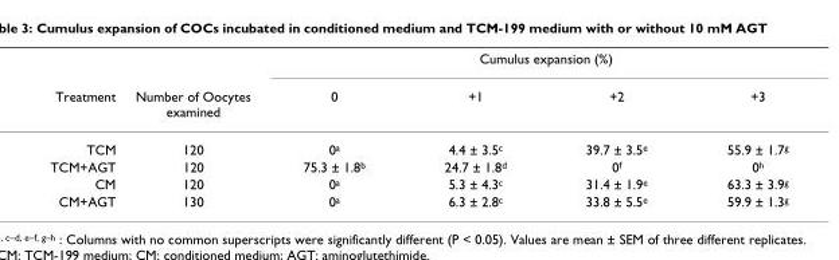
<table><thead><tr><td rowspan="2">Treatment</td><td rowspan="2">Number of Oocytes examined</td><td colspan="4">Cumulus expansion (%)</td></tr><tr><td>0</td><td>+1</td><td>+2</td><td>+3</td></tr></thead><tbody><tr><td>TCM</td><td>120</td><td>0<sup>a</sup></td><td>4.4 ± 3.5<sup>c</sup></td><td>39.7 ± 3.5<sup>e</sup></td><td>55.9 ± 1.7<sup>g</sup></td></tr><tr><td>TCM+AGT</td><td>120</td><td>75.3 ± 1.8<sup>b</sup></td><td>24.7 ± 1.8<sup>d</sup></td><td>0<sup>f</sup></td><td>0<sup>h</sup></td></tr><tr><td>CM</td><td>120</td><td>0<sup>a</sup></td><td>5.3 ± 4.3<sup>c</sup></td><td>31.4 ± 1.9<sup>e</sup></td><td>63.3 ± 3.9<sup>g</sup></td></tr><tr><td>CM+AGT</td><td>130</td><td>0<sup>a</sup></td><td>6.3 ± 2.8<sup>c</sup></td><td>33.8 ± 5.5<sup>e</sup></td><td>59.9 ± 1.3<sup>g</sup></td></tr></tbody></table>